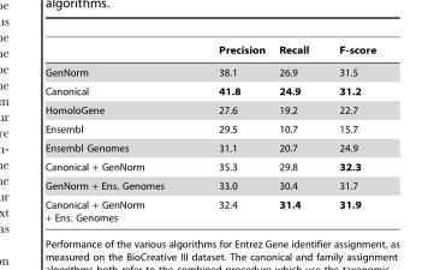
<table><thead><tr><td></td><td>Precision</td><td>Recall</td><td>F-score</td></tr></thead><tbody><tr><td>GenNorm</td><td>38.1</td><td>26.9</td><td>31.5</td></tr><tr><td>Canonical</td><td>41.8</td><td>24.9</td><td>31.2</td></tr><tr><td>HomoloGene</td><td>27.6</td><td>19.2</td><td>22.7</td></tr><tr><td>Ensembl</td><td>29.5</td><td>10.7</td><td>15.7</td></tr><tr><td>Ensembl Genomes</td><td>31.1</td><td>20.7</td><td>24.9</td></tr><tr><td>Canonical + GenNorm</td><td>35.3</td><td>29.8</td><td>32.3</td></tr><tr><td>GenNorm + Ens. Genomes</td><td>33.0</td><td>30.4</td><td>31.7</td></tr><tr><td>Canonical + GenNorm + Ens. Genomes</td><td>32.4</td><td>31.4</td><td>31.9</td></tr></tbody></table>